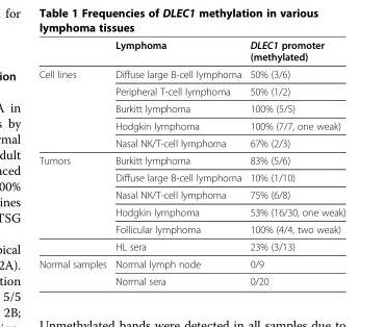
<table><thead><tr><td></td><td>Lymphoma</td><td>DLEC1 promoter (methylated)</td></tr></thead><tbody><tr><td rowspan="5">Cell lines</td><td>Diffuse large B‑cell lymphoma</td><td>50% (3/6)</td></tr><tr><td>Peripheral T-cell lymphoma</td><td>50% (1/2)</td></tr><tr><td>Burkitt lymphoma</td><td>100% (5/5)</td></tr><tr><td>Hodgkin lymphoma</td><td>100% (7/7, one weak)</td></tr><tr><td>Nasal NK/T-cell lymphoma</td><td>67% (2/3)</td></tr><tr><td rowspan="6">Tumors</td><td>Burkitt lymphoma</td><td>83% (5/6)</td></tr><tr><td>Diffuse large B‑cell lymphoma</td><td>10% (1/10)</td></tr><tr><td>Nasal NK/T‑cell lymphoma</td><td>75% (6/8)</td></tr><tr><td>Hodgkin lymphoma</td><td>53% (16/30, one weak)</td></tr><tr><td>Follicular lymphoma</td><td>100% (4/4, two weak)</td></tr><tr><td>HL sera</td><td>23% (3/13)</td></tr><tr><td rowspan="2">Normal samples</td><td>Normal lymph node</td><td>0/9</td></tr><tr><td>Normal sera</td><td>0/20</td></tr></tbody></table>